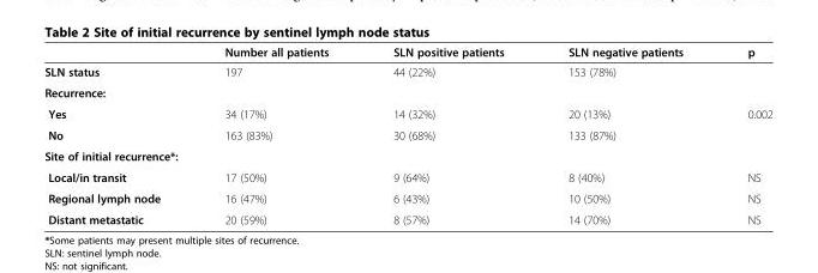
<table><thead><tr><td></td><td>Number all patients</td><td>SLN positive patients</td><td>SLN negative patients</td><td>p</td></tr></thead><tbody><tr><td>SLN status</td><td>197</td><td>44 (22%)</td><td>153 (78%)</td><td></td></tr><tr><td colspan="5">Recurrence:</td></tr><tr><td>Yes</td><td>34 (17%)</td><td>14 (32%)</td><td>20 (13%)</td><td>0.002</td></tr><tr><td>No</td><td>163 (83%)</td><td>30 (68%)</td><td>133 (87%)</td><td></td></tr><tr><td colspan="5">Site of initial recurrence*:</td></tr><tr><td>Local/in transit</td><td>17 (50%)</td><td>9 (64%)</td><td>8 (40%)</td><td>NS</td></tr><tr><td>Regional lymph node</td><td>16 (47%)</td><td>6 (43%)</td><td>10 (50%)</td><td>NS</td></tr><tr><td>Distant metastatic</td><td>20 (59%)</td><td>8 (57%)</td><td>14 (70%)</td><td>NS</td></tr></tbody></table>